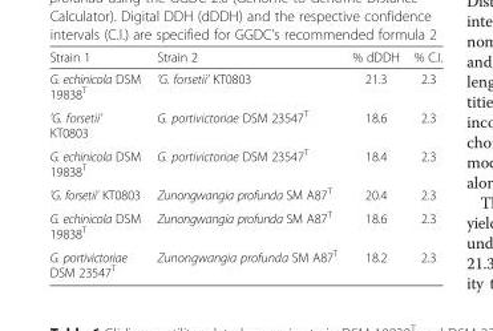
<table><thead><tr><td>Strain 1</td><td>Strain 2</td><td>% dDDH</td><td>% C.I.</td></tr></thead><tbody><tr><td>G. echinicola DSM 19838<sup>T</sup></td><td>’G. forsetii’ KT0803</td><td>21.3</td><td>2.3</td></tr><tr><td>’G. forsetii’ KT0803</td><td>G. portivictoriae DSM 23547<sup>T</sup></td><td>18.6</td><td>2.3</td></tr><tr><td>G. echinicola DSM 19838<sup>T</sup></td><td>G. portivictoriae DSM 23547<sup>T</sup></td><td>18.4</td><td>2.3</td></tr><tr><td>’G. forsetii’ KT0803</td><td>Zunongwangia profunda SM A87<sup>T</sup></td><td>20.4</td><td>2.3</td></tr><tr><td>G. echinicola DSM 19838<sup>T</sup></td><td>Zunongwangia profunda SM A87<sup>T</sup></td><td>18.6</td><td>2.3</td></tr><tr><td>G. portivictoriae DSM 23547<sup>T</sup></td><td>Zunongwangia profunda SM A87<sup>T</sup></td><td>18.2</td><td>2.3</td></tr></tbody></table>